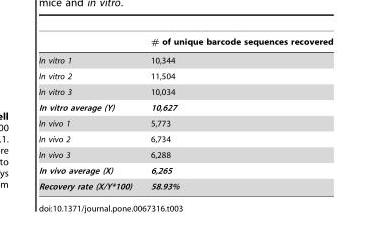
<table><thead><tr><td></td><td># of unique barcode sequences recovered</td></tr></thead><tbody><tr><td>In vitro 1</td><td>10,344</td></tr><tr><td>In vitro 2</td><td>11,504</td></tr><tr><td>In vitro 3</td><td>10,034</td></tr><tr><td>In vitro average (Y)</td><td>10,627</td></tr><tr><td>In vivo 1</td><td>5,773</td></tr><tr><td>In vivo 2</td><td>6,734</td></tr><tr><td>In vivo 3</td><td>6,288</td></tr><tr><td>In vivo average (X)</td><td>6,265</td></tr><tr><td>Recovery rate (X/Y*100)</td><td>58.93%</td></tr></tbody></table>